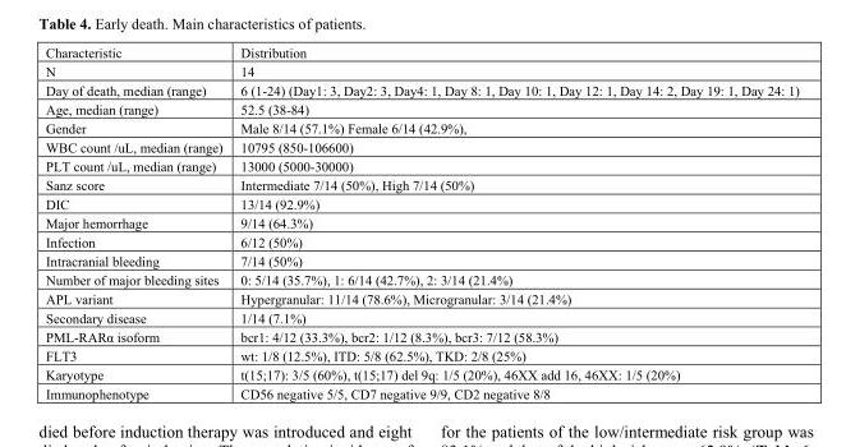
<table><thead><tr><td>Characteristic</td><td>Distribution</td></tr></thead><tbody><tr><td>N</td><td>14</td></tr><tr><td>Day of death, median (range)</td><td>6 (1-24) (Day1: 3, Day2: 3, Day4: 1, Day 8: 1, Day 10: 1, Day 12: 1, Day 14: 2, Day 19: 1, Day 24: 1)</td></tr><tr><td>Age, median (range)</td><td>52.5 (38-84)</td></tr><tr><td>Gender</td><td>Male 8/14 (57.1%) Female 6/14 (42.9%),</td></tr><tr><td>WBC count /uL, median (range)</td><td>10795 (850-106600)</td></tr><tr><td>PLT count /uL, median (range)</td><td>13000 (5000-30000)</td></tr><tr><td>Sanz score</td><td>Intermediate 7/14 (50%), High 7/14 (50%)</td></tr><tr><td>DIC</td><td>13/14 (92.9%)</td></tr><tr><td>Major hemorrhage</td><td>9/14 (64.3%)</td></tr><tr><td>Infection</td><td>6/12 (50%)</td></tr><tr><td>Intracranial bleeding</td><td>7/14 (50%)</td></tr><tr><td>Number of major bleeding sites</td><td>0: 5/14 (35.7%), 1: 6/14 (42.7%), 2: 3/14 (21.4%)</td></tr><tr><td>APL variant</td><td>Hypergranular: 11/14 (78.6%), Microgranular: 3/14 (21.4%)</td></tr><tr><td>Secondary disease</td><td>1/14 (7.1%)</td></tr><tr><td>PML-RARα isoform</td><td>bcr1: 4/12 (33.3%), bcr2: 1/12 (8.3%), bcr3: 7/12 (58.3%)</td></tr><tr><td>FLT3</td><td>wt: 1/8 (12.5%), ITD: 5/8 (62.5%), TKD: 2/8 (25%)</td></tr><tr><td>Κaryotype</td><td>t(15;17): 3/5 (60%), t(15;17) del 9q: 1/5 (20%), 46XX add 16, 46XX: 1/5 (20%)</td></tr><tr><td>Immunophenotype</td><td>CD56 negative 5/5, CD7 negative 9/9, CD2 negative 8/8</td></tr></tbody></table>